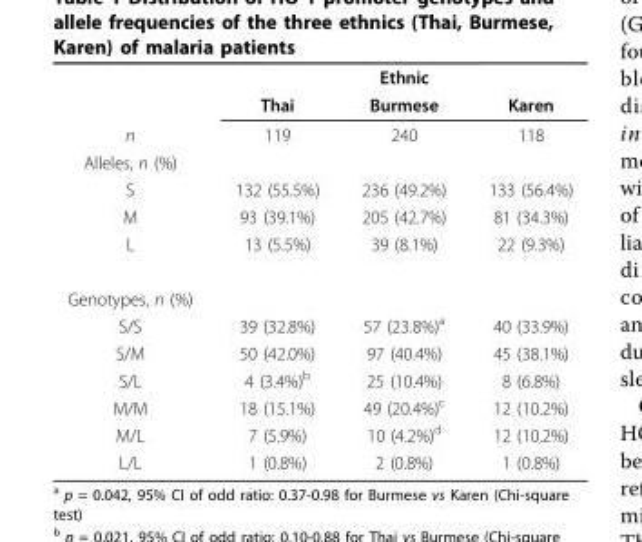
<table><thead><tr><td rowspan="2"></td><td colspan="3">Ethnic</td></tr><tr><td>Thai</td><td>Burmese</td><td>Karen</td></tr></thead><tbody><tr><td>n</td><td>119</td><td>240</td><td>118</td></tr><tr><td colspan="4">Alleles, n (%)</td></tr><tr><td>S</td><td>132 (55.5%)</td><td>236 (49.2%)</td><td>133 (56.4%)</td></tr><tr><td>M</td><td>93 (39.1%)</td><td>205 (42.7%)</td><td>81 (34.3%)</td></tr><tr><td>L</td><td>13 (5.5%)</td><td>39 (8.1%)</td><td>22 (9.3%)</td></tr><tr><td colspan="4">Genotypes, n (%)</td></tr><tr><td>S/S</td><td>39 (32.8%)</td><td>57 (23.8%)<sup>a</sup></td><td>40 (33.9%)</td></tr><tr><td>S/M</td><td>50 (42.0%)</td><td>97 (40.4%)</td><td>45 (38.1%)</td></tr><tr><td>S/L</td><td>4 (3.4%)<sup>b</sup></td><td>25 (10.4%)</td><td>8 (6.8%)</td></tr><tr><td>M/M</td><td>18 (15.1%)</td><td>49 (20.4%)<sup>c</sup></td><td>12 (10.2%)</td></tr><tr><td>M/L</td><td>7 (5.9%)</td><td>10 (4.2%)<sup>d</sup></td><td>12 (10.2%)</td></tr><tr><td>L/L</td><td>1 (0.8%)</td><td>2 (0.8%)</td><td>1 (0.8%)</td></tr></tbody></table>